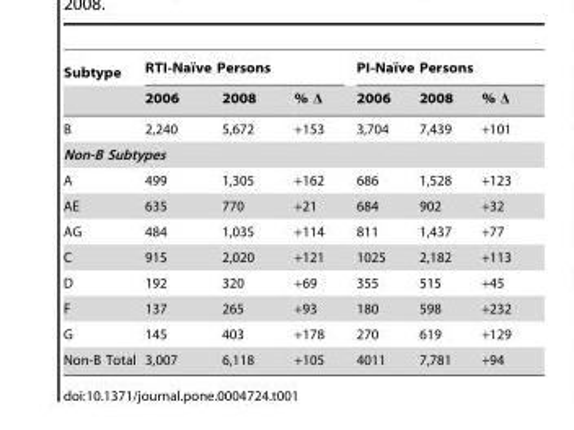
<table><thead><tr><td rowspan="2">Subtype</td><td colspan="3">RTI-Naı¨ve Persons</td><td colspan="3">PI-Naı¨ve Persons</td></tr><tr><td>2006</td><td>2008</td><td>% Δ</td><td>2006</td><td>2008</td><td>% Δ</td></tr></thead><tbody><tr><td>B</td><td>2,240</td><td>5,672</td><td>+153</td><td>3,704</td><td>7,439</td><td>+101</td></tr><tr><td colspan="7">Non-B Subtypes</td></tr><tr><td>A</td><td>499</td><td>1,305</td><td>+162</td><td>686</td><td>1,528</td><td>+123</td></tr><tr><td>AE</td><td>635</td><td>770</td><td>+21</td><td>684</td><td>902</td><td>+32</td></tr><tr><td>AG</td><td>484</td><td>1,035</td><td>+114</td><td>811</td><td>1,437</td><td>+77</td></tr><tr><td>C</td><td>915</td><td>2,020</td><td>+121</td><td>1025</td><td>2,182</td><td>+113</td></tr><tr><td>D</td><td>192</td><td>320</td><td>+69</td><td>355</td><td>515</td><td>+45</td></tr><tr><td>F</td><td>137</td><td>265</td><td>+93</td><td>180</td><td>598</td><td>+232</td></tr><tr><td>G</td><td>145</td><td>403</td><td>+178</td><td>270</td><td>619</td><td>+129</td></tr><tr><td>Non-B Total</td><td>3,007</td><td>6,118</td><td>+105</td><td>4011</td><td>7,781</td><td>+94</td></tr></tbody></table>